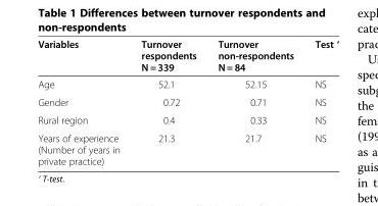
<table><thead><tr><td>Variables</td><td>Turnover respondents N = 339</td><td>Turnover non-respondents N = 84</td><td>Test ‘</td></tr></thead><tbody><tr><td>Age</td><td>52.1</td><td>52.15</td><td>NS</td></tr><tr><td>Gender</td><td>0.72</td><td>0.71</td><td>NS</td></tr><tr><td>Rural region</td><td>0.4</td><td>0.33</td><td>NS</td></tr><tr><td>Years of experience (Number of years in private practice)</td><td>21.3</td><td>21.7</td><td>NS</td></tr></tbody></table>